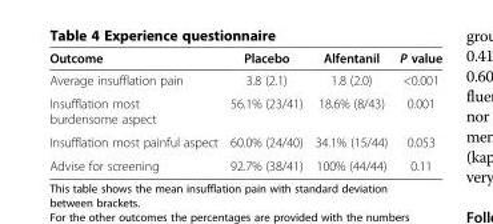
<table><thead><tr><td>Outcome</td><td>Placebo</td><td>Alfentanil</td><td>P value</td></tr></thead><tbody><tr><td>Average insufflation pain</td><td>3.8 (2.1)</td><td>1.8 (2.0)</td><td>&lt;0.001</td></tr><tr><td>Insufflation most burdensome aspect</td><td>56.1% (23/41)</td><td>18.6% (8/43)</td><td>0.001</td></tr><tr><td>Insufflation most painful aspect</td><td>60.0% (24/40)</td><td>34.1% (15/44)</td><td>0.053</td></tr><tr><td>Advise for screening</td><td>92.7% (38/41)</td><td>100% (44/44)</td><td>0.11</td></tr></tbody></table>